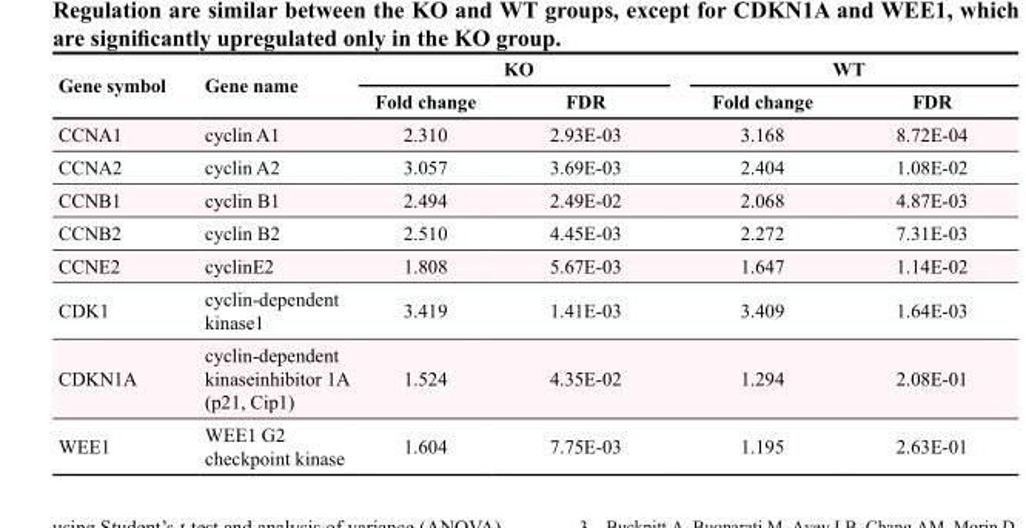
<table><thead><tr><td rowspan="2">Gene symbol</td><td rowspan="2">Gene name</td><td colspan="2">KO</td><td colspan="2">WT</td></tr><tr><td>Fold change</td><td>FDR</td><td>Fold change</td><td>FDR</td></tr></thead><tbody><tr><td>CCNA1</td><td>cyclin A1</td><td>2.310</td><td>2.93E-03</td><td>3.168</td><td>8.72E-04</td></tr><tr><td>CCNA2</td><td>cyclin A2</td><td>3.057</td><td>3.69E-03</td><td>2.404</td><td>1.08E-02</td></tr><tr><td>CCNB1</td><td>cyclin B1</td><td>2.494</td><td>2.49E-02</td><td>2.068</td><td>4.87E-03</td></tr><tr><td>CCNB2</td><td>cyclin B2</td><td>2.510</td><td>4.45E-03</td><td>2.272</td><td>7.31E-03</td></tr><tr><td>CCNE2</td><td>cyclinE2</td><td>1.808</td><td>5.67E-03</td><td>1.647</td><td>1.14E-02</td></tr><tr><td>CDK1</td><td>cyclin-dependent kinase1</td><td>3.419</td><td>1.41E-03</td><td>3.409</td><td>1.64E-03</td></tr><tr><td>CDKN1A</td><td>cyclin-dependent kinaseinhibitor 1A (p21, Cip1)</td><td>1.524</td><td>4.35E-02</td><td>1.294</td><td>2.08E-01</td></tr><tr><td>WEE1</td><td>WEE1 G2 checkpoint kinase</td><td>1.604</td><td>7.75E-03</td><td>1.195</td><td>2.63E-01</td></tr></tbody></table>